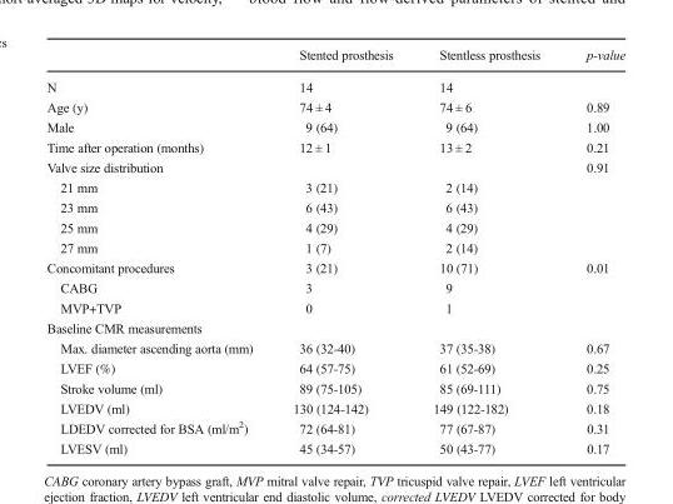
<table><thead><tr><td></td><td>Stented prosthesis</td><td>Stentless prosthesis</td><td>p-value</td></tr></thead><tbody><tr><td>N</td><td>14</td><td>14</td><td></td></tr><tr><td>Age (y)</td><td>74 ± 4</td><td>74 ± 6</td><td>0.89</td></tr><tr><td>Male</td><td>9 (64)</td><td>9 (64)</td><td>1.00</td></tr><tr><td>Time after operation (months)</td><td>12 ± 1</td><td>13 ± 2</td><td>0.21</td></tr><tr><td>Valve size distribution</td><td></td><td></td><td>0.91</td></tr><tr><td>21 mm</td><td>3 (21)</td><td>2 (14)</td><td></td></tr><tr><td>23 mm</td><td>6 (43)</td><td>6 (43)</td><td></td></tr><tr><td>25 mm</td><td>4 (29)</td><td>4 (29)</td><td></td></tr><tr><td>27 mm</td><td>1 (7)</td><td>2 (14)</td><td></td></tr><tr><td>Concomitant procedures</td><td>3 (21)</td><td>10 (71)</td><td>0.01</td></tr><tr><td>CABG</td><td>3</td><td>9</td><td></td></tr><tr><td>MVP+TVP</td><td>0</td><td>1</td><td></td></tr><tr><td colspan="4">Baseline CMR measurements</td></tr><tr><td>Max. diameter ascending aorta (mm)</td><td>36 (32-40)</td><td>37 (35-38)</td><td>0.67</td></tr><tr><td>LVEF (%)</td><td>64 (57-75)</td><td>61 (52-69)</td><td>0.25</td></tr><tr><td>Stroke volume (ml)</td><td>89 (75-105)</td><td>85 (69-111)</td><td>0.75</td></tr><tr><td>LVEDV (ml)</td><td>130 (124-142)</td><td>149 (122-182)</td><td>0.18</td></tr><tr><td>LDEDV corrected for BSA (ml/m<sup>2</sup>)</td><td>72 (64-81)</td><td>77 (67-87)</td><td>0.31</td></tr><tr><td>LVESV (ml)</td><td>45 (34-57)</td><td>50 (43-77)</td><td>0.17</td></tr></tbody></table>